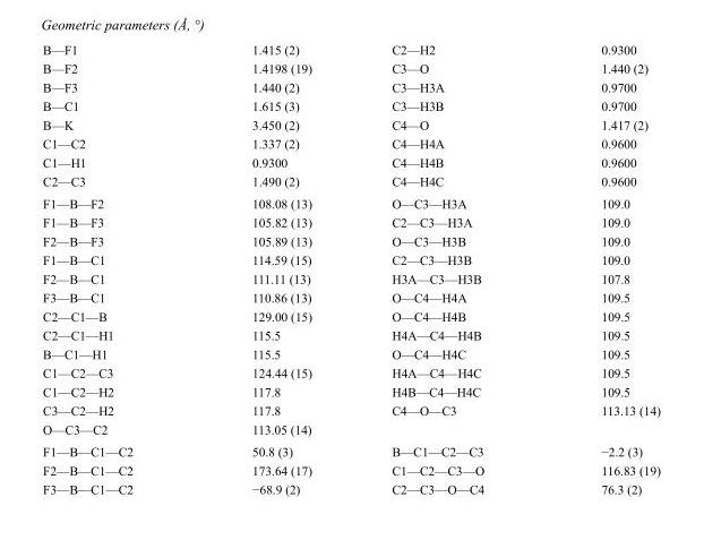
<table><tbody><tr><td>B—F1</td><td>1.415 (2)</td><td>C2—H2</td><td>0.9300</td></tr><tr><td>B—F2</td><td>1.4198 (19)</td><td>C3—O</td><td>1.440 (2)</td></tr><tr><td>B—F3</td><td>1.440 (2)</td><td>C3—H3A</td><td>0.9700</td></tr><tr><td>B—C1</td><td>1.615 (3)</td><td>C3—H3B</td><td>0.9700</td></tr><tr><td>B—K</td><td>3.450 (2)</td><td>C4—O</td><td>1.417 (2)</td></tr><tr><td>C1—C2</td><td>1.337 (2)</td><td>C4—H4A</td><td>0.9600</td></tr><tr><td>C1—H1</td><td>0.9300</td><td>C4—H4B</td><td>0.9600</td></tr><tr><td>C2—C3</td><td>1.490 (2)</td><td>C4—H4C</td><td>0.9600</td></tr><tr><td>F1—B—F2</td><td>108.08 (13)</td><td>O—C3—H3A</td><td>109.0</td></tr><tr><td>F1—B—F3</td><td>105.82 (13)</td><td>C2—C3—H3A</td><td>109.0</td></tr><tr><td>F2—B—F3</td><td>105.89 (13)</td><td>O—C3—H3B</td><td>109.0</td></tr><tr><td>F1—B—C1</td><td>114.59 (15)</td><td>C2—C3—H3B</td><td>109.0</td></tr><tr><td>F2—B—C1</td><td>111.11 (13)</td><td>H3A—C3—H3B</td><td>107.8</td></tr><tr><td>F3—B—C1</td><td>110.86 (13)</td><td>O—C4—H4A</td><td>109.5</td></tr><tr><td>C2—C1—B</td><td>129.00 (15)</td><td>O—C4—H4B</td><td>109.5</td></tr><tr><td>C2—C1—H1</td><td>115.5</td><td>H4A—C4—H4B</td><td>109.5</td></tr><tr><td>B—C1—H1</td><td>115.5</td><td>O—C4—H4C</td><td>109.5</td></tr><tr><td>C1—C2—C3</td><td>124.44 (15)</td><td>H4A—C4—H4C</td><td>109.5</td></tr><tr><td>C1—C2—H2</td><td>117.8</td><td>H4B—C4—H4C</td><td>109.5</td></tr><tr><td>C3—C2—H2</td><td>117.8</td><td>C4—O—C3</td><td>113.13 (14)</td></tr><tr><td>O—C3—C2</td><td>113.05 (14)</td><td></td><td></td></tr><tr><td>F1—B—C1—C2</td><td>50.8 (3)</td><td>B—C1—C2—C3</td><td>−2.2 (3)</td></tr><tr><td>F2—B—C1—C2</td><td>173.64 (17)</td><td>C1—C2—C3—O</td><td>116.83 (19)</td></tr><tr><td>F3—B—C1—C2</td><td>−68.9 (2)</td><td>C2—C3—O—C4</td><td>76.3 (2)</td></tr></tbody></table>